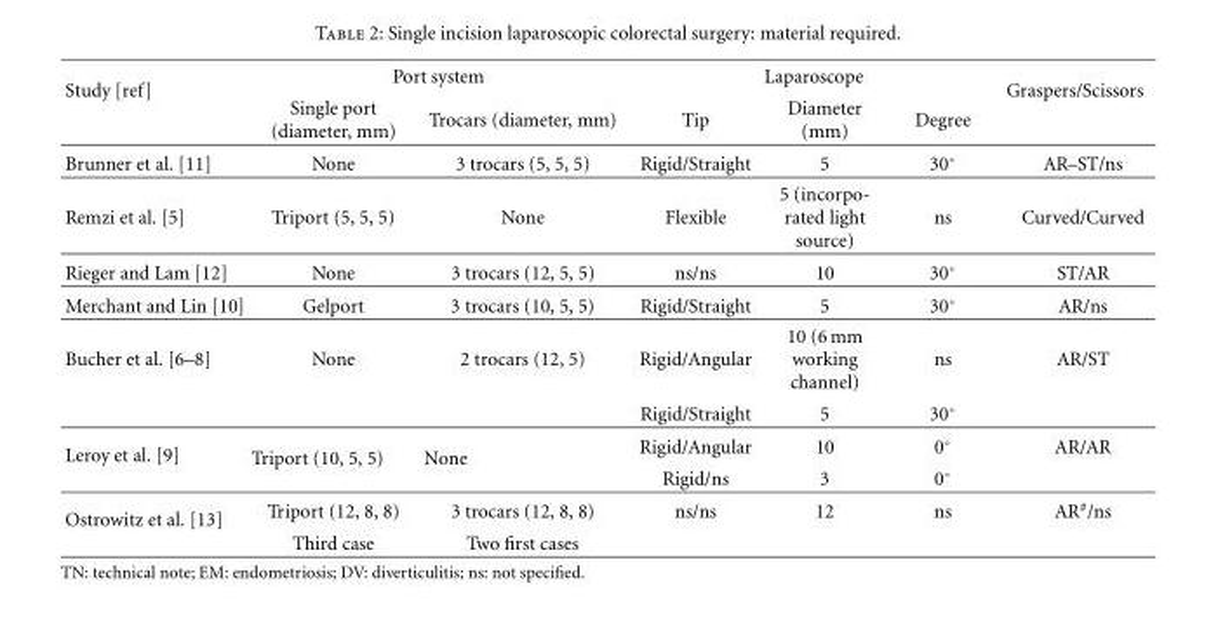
<table><thead><tr><td rowspan="2">Study [ref]</td><td colspan="2">Port system</td><td colspan="3">Laparoscope</td><td rowspan="2">Graspers/Scissors</td></tr><tr><td>Single port (diameter, mm)</td><td>Trocars (diameter, mm)</td><td>Tip</td><td>Diameter (mm)</td><td>Degree</td></tr></thead><tbody><tr><td>Brunner et al. [11]</td><td>None</td><td>3 trocars (5, 5, 5)</td><td>Rigid/Straight</td><td>5</td><td>30◦</td><td>AR–ST/ns</td></tr><tr><td>Remzi et al. [5]</td><td>Triport (5, 5, 5)</td><td>None</td><td>Flexible</td><td>5 (incorpo- rated light source)</td><td>ns</td><td>Curved/Curved</td></tr><tr><td>Rieger and Lam [12]</td><td>None</td><td>3 trocars (12, 5, 5)</td><td>ns/ns</td><td>10</td><td>30◦</td><td>ST/AR</td></tr><tr><td>Merchant and Lin [10]</td><td>Gelport</td><td>3 trocars (10, 5, 5)</td><td>Rigid/Straight</td><td>5</td><td>30◦</td><td>AR/ns</td></tr><tr><td rowspan="2">Bucher et al. [6–8]</td><td>None</td><td>2 trocars (12, 5)</td><td>Rigid/Angular</td><td>10 (6 mm working channel)</td><td>ns</td><td>AR/ST</td></tr><tr><td></td><td></td><td>Rigid/Straight</td><td>5</td><td>30◦</td><td></td></tr><tr><td rowspan="2">Leroy et al. [9]</td><td rowspan="2">Triport (10, 5, 5)</td><td rowspan="2">None</td><td>Rigid/Angular</td><td>10</td><td>0◦</td><td>AR/AR</td></tr><tr><td>Rigid/ns</td><td>3</td><td>0◦</td><td></td></tr><tr><td rowspan="2">Ostrowitz et al. [13]</td><td>Triport (12, 8, 8)</td><td>3 trocars (12, 8, 8)</td><td>ns/ns</td><td>12</td><td>ns</td><td>AR<sup>#</sup>/ns</td></tr><tr><td>Third case</td><td>Two first cases</td><td></td><td></td><td></td><td></td></tr></tbody></table>